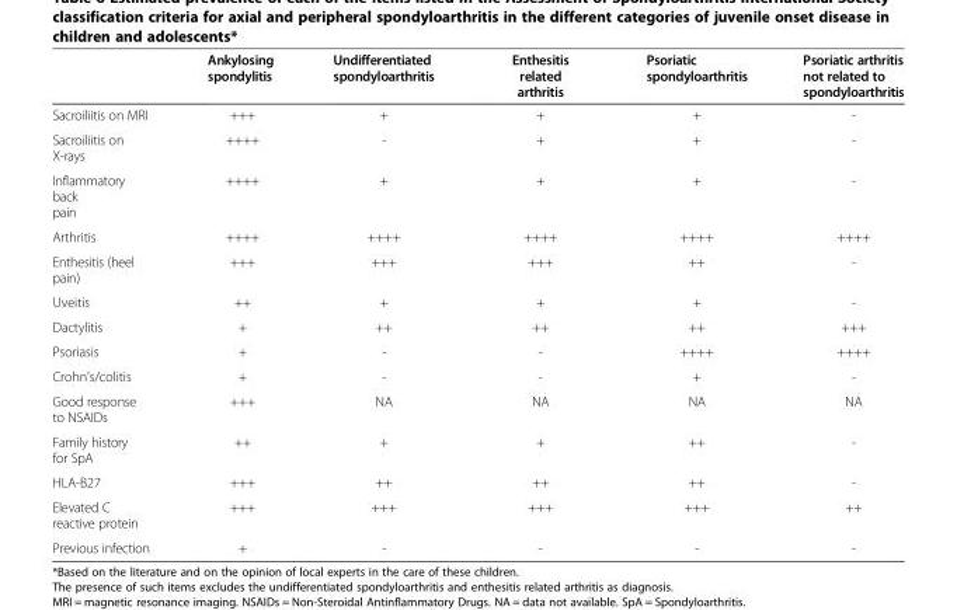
<table><thead><tr><td></td><td>Ankylosing spondylitis</td><td>Undifferentiated spondyloarthritis</td><td>Enthesitis related arthritis</td><td>Psoriatic spondyloarthritis</td><td>Psoriatic arthritis not related to spondyloarthritis</td></tr></thead><tbody><tr><td>Sacroiliitis on MRI</td><td>+++</td><td>+</td><td>+</td><td>+</td><td>-</td></tr><tr><td>Sacroiliitis on X-rays</td><td>++++</td><td>-</td><td>+</td><td>+</td><td>-</td></tr><tr><td>Inflammatory back pain</td><td>++++</td><td>+</td><td>+</td><td>+</td><td>-</td></tr><tr><td>Arthritis</td><td>++++</td><td>++++</td><td>++++</td><td>++++</td><td>++++</td></tr><tr><td>Enthesitis (heel pain)</td><td>+++</td><td>+++</td><td>+++</td><td>++</td><td>-</td></tr><tr><td>Uveitis</td><td>++</td><td>+</td><td>+</td><td>+</td><td>-</td></tr><tr><td>Dactylitis</td><td>+</td><td>++</td><td>++</td><td>++</td><td>+++</td></tr><tr><td>Psoriasis</td><td>+</td><td>-</td><td>-</td><td>++++</td><td>++++</td></tr><tr><td>Crohn’s/colitis</td><td>+</td><td>-</td><td>-</td><td>+</td><td>-</td></tr><tr><td>Good response to NSAIDs</td><td>+++</td><td>NA</td><td>NA</td><td>NA</td><td>NA</td></tr><tr><td>Family history for SpA</td><td>++</td><td>+</td><td>+</td><td>++</td><td>-</td></tr><tr><td>HLA-B27</td><td>+++</td><td>++</td><td>++</td><td>++</td><td>-</td></tr><tr><td>Elevated C reactive protein</td><td>+++</td><td>+++</td><td>+++</td><td>+++</td><td>++</td></tr><tr><td>Previous infection</td><td>+</td><td>-</td><td>-</td><td>-</td><td>-</td></tr></tbody></table>